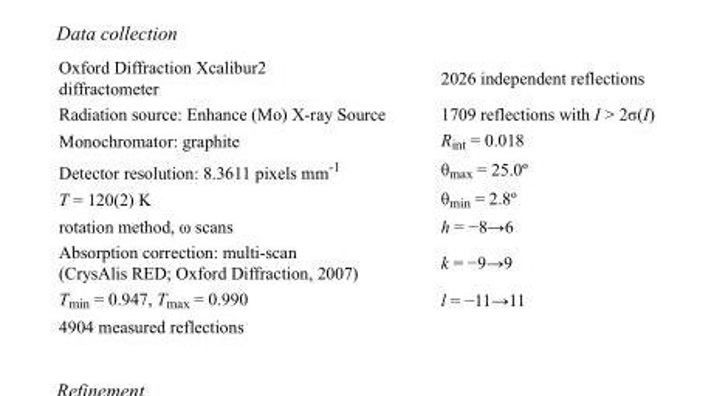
<table><tbody><tr><td>Oxford Diffraction Xcalibur2 diffractometer</td><td>2026 independent reflections</td></tr><tr><td>Radiation source: Enhance (Mo) X-ray Source</td><td>1709 reflections with I &gt; 2σ(I)</td></tr><tr><td>Monochromator: graphite</td><td>R<sub>int</sub> = 0.018</td></tr><tr><td>Detector resolution: 8.3611 pixels mm<sup>-1</sup></td><td>θ<sub>max</sub> = 25.0º</td></tr><tr><td>T = 120(2) K</td><td>θ<sub>min</sub> = 2.8º</td></tr><tr><td>rotation method, ω scans</td><td>h = −8→6</td></tr><tr><td>Absorption correction: multi-scan (CrysAlis RED; Oxford Diffraction, 2007)</td><td>k = −9→9</td></tr><tr><td>T<sub>min</sub> = 0.947, T<sub>max</sub> = 0.990</td><td>l = −11→11</td></tr><tr><td>4904 measured reflections</td><td></td></tr></tbody></table>